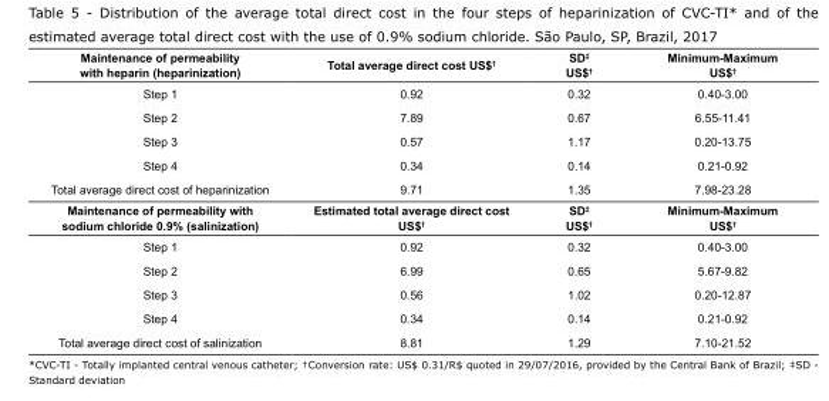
<table><tbody><tr><td>Maintenance of permeability with heparin (heparinization)</td><td>Total average direct cost US$<sup>†</sup></td><td>SD<sup>‡</sup> US$<sup>†</sup></td><td>Minimum-Maximum US$<sup>†</sup></td></tr><tr><td>Step 1</td><td>0.92</td><td>0.32</td><td>0.40-3.00</td></tr><tr><td>Step 2</td><td>7.89</td><td>0.67</td><td>6.55-11.41</td></tr><tr><td>Step 3</td><td>0.57</td><td>1.17</td><td>0.20-13.75</td></tr><tr><td>Step 4</td><td>0.34</td><td>0.14</td><td>0.21-0.92</td></tr><tr><td>Total average direct cost of heparinization</td><td>9.71</td><td>1.35</td><td>7.98-23.28</td></tr><tr><td>Maintenance of permeability with sodium chloride 0.9% (salinization)</td><td>Estimated total average direct cost US$<sup>†</sup></td><td>SD<sup>‡</sup> US$<sup>†</sup></td><td>Minimum-Maximum US$<sup>†</sup></td></tr><tr><td>Step 1</td><td>0.92</td><td>0.32</td><td>0.40-3.00</td></tr><tr><td>Step 2</td><td>6.99</td><td>0.65</td><td>5.67-9.82</td></tr><tr><td>Step 3</td><td>0.56</td><td>1.02</td><td>0.20-12.87</td></tr><tr><td>Step 4</td><td>0.34</td><td>0.14</td><td>0.21-0.92</td></tr><tr><td>Total average direct cost of salinization</td><td>8.81</td><td>1.29</td><td>7.10-21.52</td></tr></tbody></table>